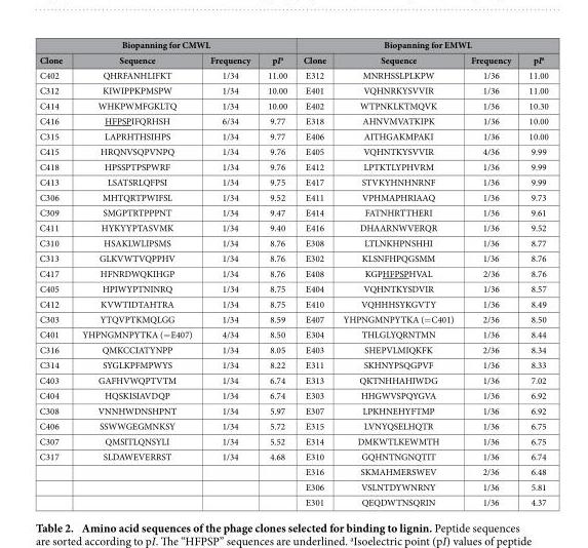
<table><thead><tr><td colspan="4">Biopanning for CMWL</td><td colspan="4">Biopanning for EMWL</td></tr><tr><td>Clone</td><td>Sequence</td><td>Frequency</td><td>pI<sup>a</sup></td><td>Clone</td><td>Sequence</td><td>Frequency</td><td>pI<sup>a</sup></td></tr></thead><tbody><tr><td>C402</td><td>QHRFANHLIFKT</td><td>1/34</td><td>11.00</td><td>E312</td><td>MNRHSSLPLKPW</td><td>1/36</td><td>11.00</td></tr><tr><td>C312</td><td>KIWIPPKPMSPW</td><td>1/34</td><td>10.00</td><td>E401</td><td>VQHNRKYSVVIR</td><td>1/36</td><td>11.00</td></tr><tr><td>C414</td><td>WHKPWMFGKLTQ</td><td>1/34</td><td>10.00</td><td>E402</td><td>WTPNKLKTMQVK</td><td>1/36</td><td>10.30</td></tr><tr><td>C416</td><td>HFPSPIFQRHSH</td><td>6/34</td><td>9.77</td><td>E318</td><td>AHNVMVATKIPK</td><td>1/36</td><td>10.00</td></tr><tr><td>C315</td><td>LAPRHTHSIHPS</td><td>1/34</td><td>9.77</td><td>E406</td><td>AITHGAKMPAKI</td><td>1/36</td><td>10.00</td></tr><tr><td>C415</td><td>HRQNVSQPVNPQ</td><td>1/34</td><td>9.76</td><td>E405</td><td>VQHNTKYSVVIR</td><td>4/36</td><td>9.99</td></tr><tr><td>C418</td><td>HPSSPTPSPWRF</td><td>1/34</td><td>9.76</td><td>E412</td><td>LPTKTLYPHVRM</td><td>1/36</td><td>9.99</td></tr><tr><td>C413</td><td>LSATSRLQFPSI</td><td>1/34</td><td>9.75</td><td>E417</td><td>STVKYHNHNRNF</td><td>1/36</td><td>9.99</td></tr><tr><td>C306</td><td>MHTQRTPWIFSL</td><td>1/34</td><td>9.52</td><td>E411</td><td>VPHMAPHRIAAQ</td><td>1/36</td><td>9.73</td></tr><tr><td>C309</td><td>SMGPTRTPPPNT</td><td>1/34</td><td>9.47</td><td>E414</td><td>FATNHRTTHERI</td><td>1/36</td><td>9.61</td></tr><tr><td>C411</td><td>HYKYYPTASVMK</td><td>1/34</td><td>9.40</td><td>E416</td><td>DHAARNWVERQR</td><td>1/36</td><td>9.52</td></tr><tr><td>C310</td><td>HSAKLWLIPSMS</td><td>1/34</td><td>8.76</td><td>E308</td><td>LTLNKHPNSHHI</td><td>1/36</td><td>8.77</td></tr><tr><td>C313</td><td>GLKVWTVQPPHV</td><td>1/34</td><td>8.76</td><td>E302</td><td>KLSNFHPQGSMM</td><td>1/36</td><td>8.76</td></tr><tr><td>C417</td><td>HFNRDWQKIHGP</td><td>1/34</td><td>8.76</td><td>E408</td><td>KGPHFPSPHVAL</td><td>2/36</td><td>8.76</td></tr><tr><td>C405</td><td>HPIWYPTNINRQ</td><td>1/34</td><td>8.75</td><td>E404</td><td>VQHNTKYSDVIR</td><td>1/36</td><td>8.57</td></tr><tr><td>C412</td><td>KVWTIDTAHTRA</td><td>1/34</td><td>8.75</td><td>E410</td><td>VQHHHSYKGVTY</td><td>1/36</td><td>8.49</td></tr><tr><td>C303</td><td>YTQVPTKMQLGG</td><td>1/34</td><td>8.59</td><td>E407</td><td>YHPNGMNPYTKA (= C401)</td><td>2/36</td><td>8.50</td></tr><tr><td>C401</td><td>YHPNGMNPYTKA (= E407)</td><td>4/34</td><td>8.50</td><td>E304</td><td>THLGLYQRNTMN</td><td>1/36</td><td>8.44</td></tr><tr><td>C316</td><td>QMKCCIATYNPP</td><td>1/34</td><td>8.05</td><td>E403</td><td>SHEPVLMIQKFK</td><td>2/36</td><td>8.34</td></tr><tr><td>C314</td><td>SYGLKPFMPWYS</td><td>1/34</td><td>8.22</td><td>E311</td><td>SKHNYPSQGPVF</td><td>1/36</td><td>8.33</td></tr><tr><td>C403</td><td>GAFHVWQPTVTM</td><td>1/34</td><td>6.74</td><td>E313</td><td>QKTNHHAHIWDG</td><td>1/36</td><td>7.02</td></tr><tr><td>C404</td><td>HQSKISIAVDQP</td><td>1/34</td><td>6.74</td><td>E303</td><td>HHGWVSPQYGVA</td><td>1/36</td><td>6.92</td></tr><tr><td>C308</td><td>VNNHWDNSHPNT</td><td>1/34</td><td>5.97</td><td>E307</td><td>LPKHNEHYFTMP</td><td>1/36</td><td>6.92</td></tr><tr><td>C406</td><td>SSWWGEGMNKSY</td><td>1/34</td><td>5.72</td><td>E315</td><td>LVNYQSELHQTR</td><td>1/36</td><td>6.75</td></tr><tr><td>C307</td><td>QMSITLQNSYLI</td><td>1/34</td><td>5.52</td><td>E314</td><td>DMKWTLKEWMTH</td><td>1/36</td><td>6.75</td></tr><tr><td rowspan="4">C317</td><td>SLDAWEVERRST</td><td>1/34</td><td>4.68</td><td>E310</td><td>GQHNTNGNQTIT</td><td>1/36</td><td>6.74</td></tr><tr><td></td><td></td><td></td><td>E316</td><td>SKMAHMERSWEV</td><td>2/36</td><td>6.48</td></tr><tr><td></td><td></td><td></td><td>E306</td><td>VSLNTDYWNRNY</td><td>1/36</td><td>5.81</td></tr><tr><td></td><td></td><td></td><td>E301</td><td>QEQDWTNSQRIN</td><td>1/36</td><td>4.37</td></tr></tbody></table>